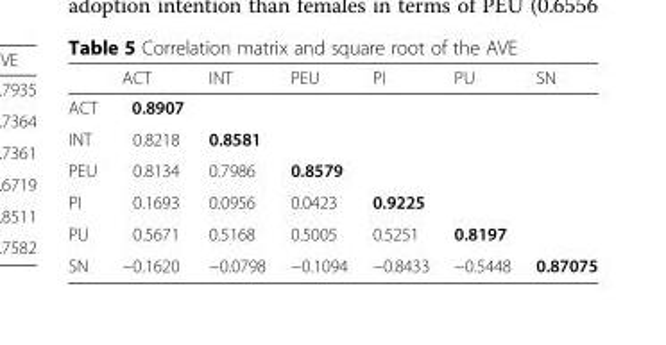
<table><thead><tr><td></td><td>ACT</td><td>INT</td><td>PEU</td><td>PI</td><td>PU</td><td>SN</td></tr></thead><tbody><tr><td>ACT</td><td>0.8907</td><td></td><td></td><td></td><td></td><td></td></tr><tr><td>INT</td><td>0.8218</td><td>0.8581</td><td></td><td></td><td></td><td></td></tr><tr><td>PEU</td><td>0.8134</td><td>0.7986</td><td>0.8579</td><td></td><td></td><td></td></tr><tr><td>PI</td><td>0.1693</td><td>0.0956</td><td>0.0423</td><td>0.9225</td><td></td><td></td></tr><tr><td>PU</td><td>0.5671</td><td>0.5168</td><td>0.5005</td><td>0.5251</td><td>0.8197</td><td></td></tr><tr><td>SN</td><td>−0.1620</td><td>−0.0798</td><td>−0.1094</td><td>−0.8433</td><td>−0.5448</td><td>0.87075</td></tr></tbody></table>